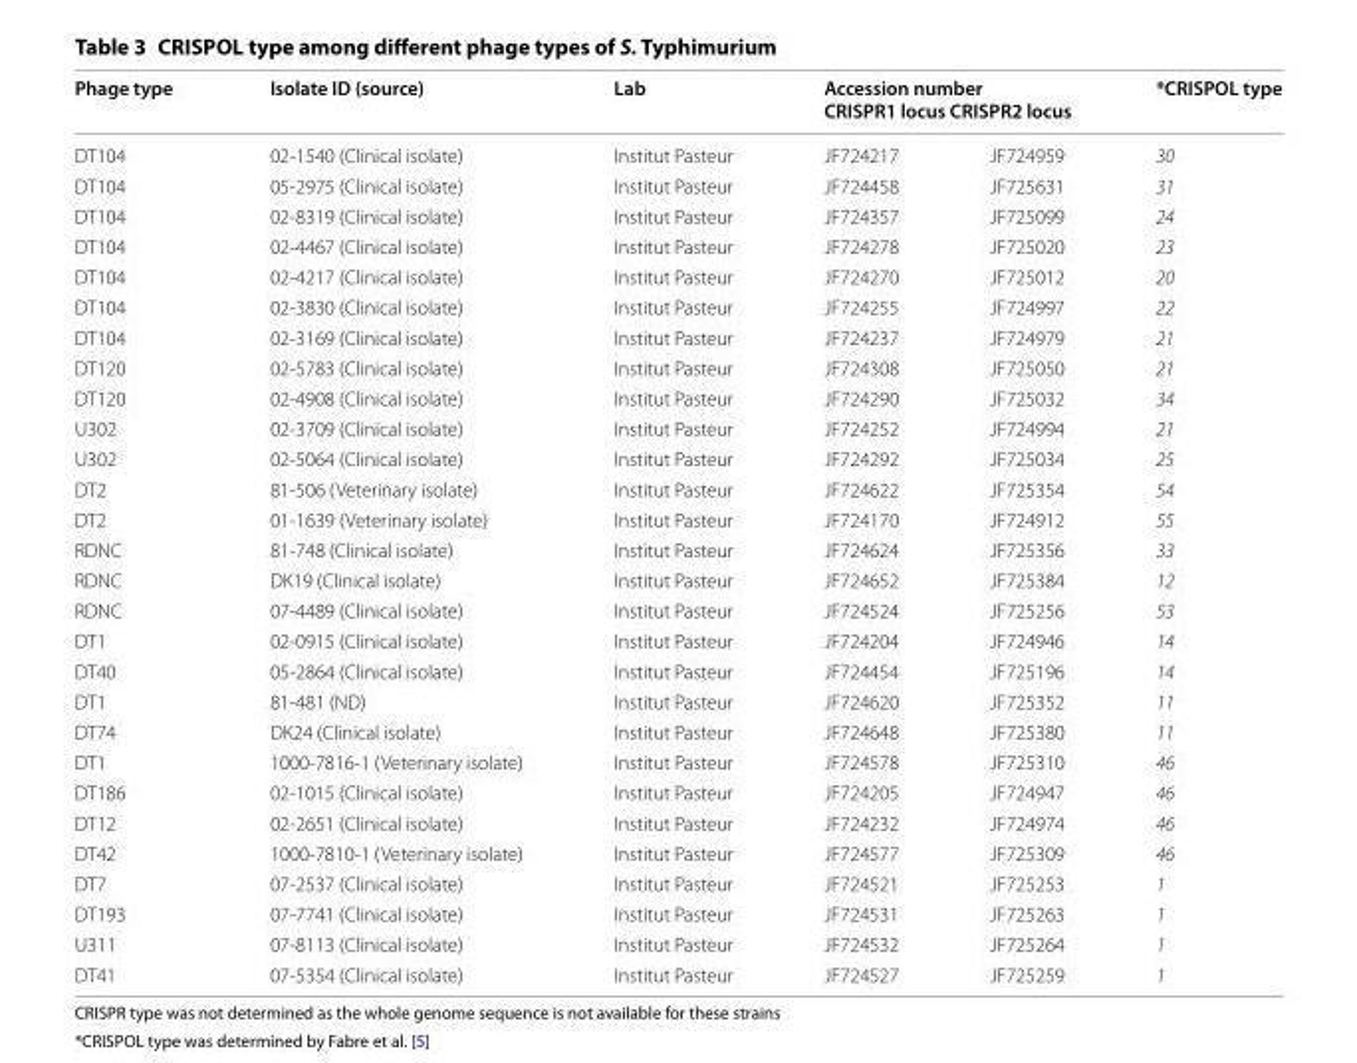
<table><thead><tr><td rowspan="2">Phage type DT104</td><td rowspan="2">Isolate ID (source) 02-1540 (Clinical isolate)</td><td rowspan="2">Lab Institut Pasteur</td><td colspan="2">Accession number CRISPR1 locus CRISPR2 locus</td><td rowspan="2">*CRISPOL type 30</td></tr><tr><td>JF724217</td><td>JF724959</td></tr></thead><tbody><tr><td>DT104</td><td>05-2975 (Clinical isolate)</td><td>Institut Pasteur</td><td>JF724458</td><td>JF725631</td><td>31</td></tr><tr><td>DT104</td><td>02-8319 (Clinical isolate)</td><td>Institut Pasteur</td><td>JF724357</td><td>JF725099</td><td>24</td></tr><tr><td>DT104</td><td>02-4467 (Clinical isolate)</td><td>Institut Pasteur</td><td>JF724278</td><td>JF725020</td><td>23</td></tr><tr><td>DT104</td><td>02-4217 (Clinical isolate)</td><td>Institut Pasteur</td><td>JF724270</td><td>JF725012</td><td>20</td></tr><tr><td>DT104</td><td>02-3830 (Clinical isolate)</td><td>Institut Pasteur</td><td>JF724255</td><td>JF724997</td><td>22</td></tr><tr><td>DT104</td><td>02-3169 (Clinical isolate)</td><td>Institut Pasteur</td><td>JF724237</td><td>JF724979</td><td>21</td></tr><tr><td>DT120</td><td>02-5783 (Clinical isolate)</td><td>Institut Pasteur</td><td>JF724308</td><td>JF725050</td><td>21</td></tr><tr><td>DT120</td><td>02-4908 (Clinical isolate)</td><td>Institut Pasteur</td><td>JF724290</td><td>JF725032</td><td>34</td></tr><tr><td>U302</td><td>02-3709 (Clinical isolate)</td><td>Institut Pasteur</td><td>JF724252</td><td>JF724994</td><td>21</td></tr><tr><td>U302</td><td>02-5064 (Clinical isolate)</td><td>Institut Pasteur</td><td>JF724292</td><td>JF725034</td><td>25</td></tr><tr><td>DT2</td><td>81-506 (Veterinary isolate)</td><td>Institut Pasteur</td><td>JF724622</td><td>JF725354</td><td>54</td></tr><tr><td>DT2</td><td>01-1639 (Veterinary isolate)</td><td>Institut Pasteur</td><td>JF724170</td><td>JF724912</td><td>55</td></tr><tr><td>RDNC</td><td>81-748 (Clinical isolate)</td><td>Institut Pasteur</td><td>JF724624</td><td>JF725356</td><td>33</td></tr><tr><td>RDNC</td><td>DK19 (Clinical isolate)</td><td>Institut Pasteur</td><td>JF724652</td><td>JF725384</td><td>12</td></tr><tr><td>RDNC</td><td>07-4489 (Clinical isolate)</td><td>Institut Pasteur</td><td>JF724524</td><td>JF725256</td><td>53</td></tr><tr><td>DT1</td><td>02-0915 (Clinical isolate)</td><td>Institut Pasteur</td><td>JF724204</td><td>JF724946</td><td>14</td></tr><tr><td>DT40</td><td>05-2864 (Clinical isolate)</td><td>Institut Pasteur</td><td>JF724454</td><td>JF725196</td><td>14</td></tr><tr><td>DT1</td><td>81-481 (ND)</td><td>Institut Pasteur</td><td>JF724620</td><td>JF725352</td><td>11</td></tr><tr><td>DT74</td><td>DK24 (Clinical isolate)</td><td>Institut Pasteur</td><td>JF724648</td><td>JF725380</td><td>11</td></tr><tr><td>DT1</td><td>1000-7816-1 (Veterinary isolate)</td><td>Institut Pasteur</td><td>JF724578</td><td>JF725310</td><td>46</td></tr><tr><td>DT186</td><td>02-1015 (Clinical isolate)</td><td>Institut Pasteur</td><td>JF724205</td><td>JF724947</td><td>46</td></tr><tr><td>DT12</td><td>02-2651 (Clinical isolate)</td><td>Institut Pasteur</td><td>JF724232</td><td>JF724974</td><td>46</td></tr><tr><td>DT42</td><td>1000-7810-1 (Veterinary isolate)</td><td>Institut Pasteur</td><td>JF724577</td><td>JF725309</td><td>46</td></tr><tr><td>DT7</td><td>07-2537 (Clinical isolate)</td><td>Institut Pasteur</td><td>JF724521</td><td>JF725253</td><td>1</td></tr><tr><td>DT193</td><td>07-7741 (Clinical isolate)</td><td>Institut Pasteur</td><td>JF724531</td><td>JF725263</td><td>1</td></tr><tr><td>U311</td><td>07-8113 (Clinical isolate)</td><td>Institut Pasteur</td><td>JF724532</td><td>JF725264</td><td>1</td></tr><tr><td>DT41</td><td>07-5354 (Clinical isolate)</td><td>Institut Pasteur</td><td>JF724527</td><td>JF725259</td><td>1</td></tr></tbody></table>